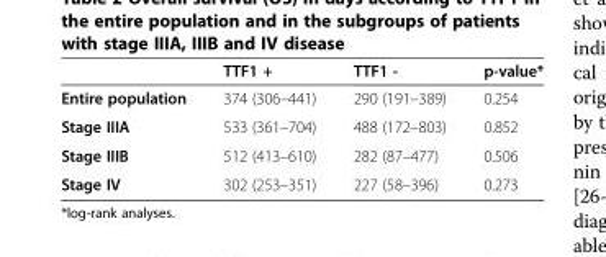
<table><thead><tr><td></td><td>TTF1 +</td><td>TTF1 -</td><td>p-value*</td></tr></thead><tbody><tr><td>Entire population</td><td>374 (306–441)</td><td>290 (191–389)</td><td>0.254</td></tr><tr><td>Stage IIIA</td><td>533 (361–704)</td><td>488 (172–803)</td><td>0.852</td></tr><tr><td>Stage IIIB</td><td>512 (413–610)</td><td>282 (87–477)</td><td>0.506</td></tr><tr><td>Stage IV</td><td>302 (253–351)</td><td>227 (58–396)</td><td>0.273</td></tr></tbody></table>